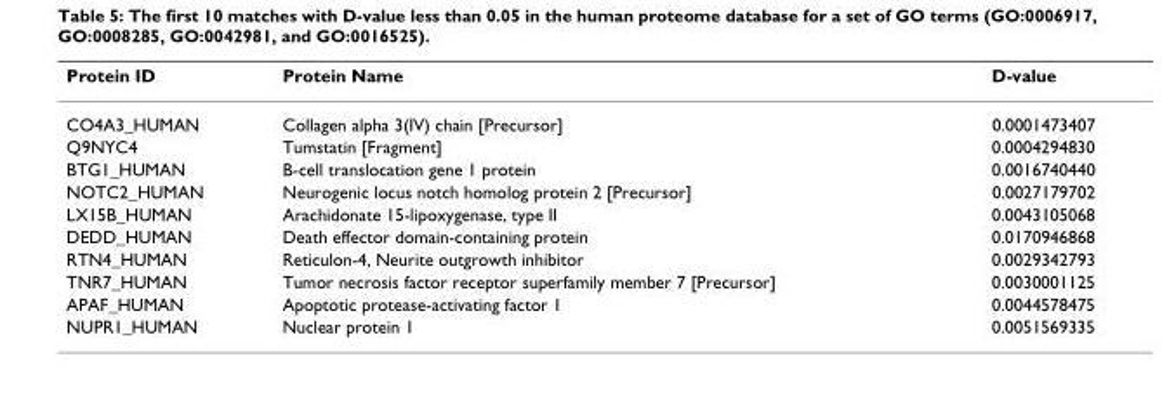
<table><thead><tr><td>Protein ID</td><td>Protein Name</td><td>D-value</td></tr></thead><tbody><tr><td>CO4A3_HUMAN</td><td>Collagen alpha 3(IV) chain [Precursor]</td><td>0.0001473407</td></tr><tr><td>Q9NYC4</td><td>Tumstatin [Fragment]</td><td>0.0004294830</td></tr><tr><td>BTG1_HUMAN</td><td>B-cell translocation gene 1 protein</td><td>0.0016740440</td></tr><tr><td>NOTC2_HUMAN</td><td>Neurogenic locus notch homolog protein 2 [Precursor]</td><td>0.0027179702</td></tr><tr><td>LX15B_HUMAN</td><td>Arachidonate 15-lipoxygenase, type II</td><td>0.0043105068</td></tr><tr><td>DEDD_HUMAN</td><td>Death effector domain-containing protein</td><td>0.0170946868</td></tr><tr><td>RTN4_HUMAN</td><td>Reticulon-4, Neurite outgrowth inhibitor</td><td>0.0029342793</td></tr><tr><td>TNR7_HUMAN</td><td>Tumor necrosis factor receptor superfamily member 7 [Precursor]</td><td>0.0030001125</td></tr><tr><td>APAF_HUMAN</td><td>Apoptotic protease-activating factor 1</td><td>0.0044578475</td></tr><tr><td>NUPR1_HUMAN</td><td>Nuclear protein 1</td><td>0.0051569335</td></tr></tbody></table>